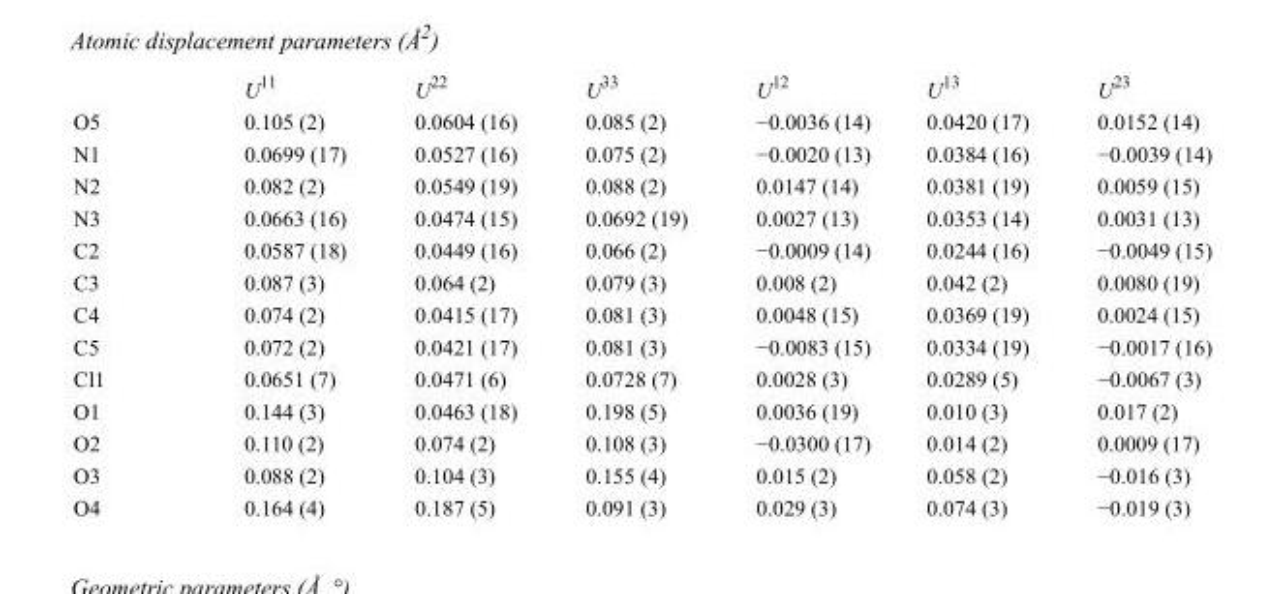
<table><thead><tr><td></td><td>U<sup>11</sup></td><td>U<sup>22</sup></td><td>U<sup>33</sup></td><td>U<sup>12</sup></td><td>U<sup>13</sup></td><td>U<sup>23</sup></td></tr></thead><tbody><tr><td>O5</td><td>0.105 (2)</td><td>0.0604 (16)</td><td>0.085 (2)</td><td>−0.0036 (14)</td><td>0.0420 (17)</td><td>0.0152 (14)</td></tr><tr><td>N1</td><td>0.0699 (17)</td><td>0.0527 (16)</td><td>0.075 (2)</td><td>−0.0020 (13)</td><td>0.0384 (16)</td><td>−0.0039 (14)</td></tr><tr><td>N2</td><td>0.082 (2)</td><td>0.0549 (19)</td><td>0.088 (2)</td><td>0.0147 (14)</td><td>0.0381 (19)</td><td>0.0059 (15)</td></tr><tr><td>N3</td><td>0.0663 (16)</td><td>0.0474 (15)</td><td>0.0692 (19)</td><td>0.0027 (13)</td><td>0.0353 (14)</td><td>0.0031 (13)</td></tr><tr><td>C2</td><td>0.0587 (18)</td><td>0.0449 (16)</td><td>0.066 (2)</td><td>−0.0009 (14)</td><td>0.0244 (16)</td><td>−0.0049 (15)</td></tr><tr><td>C3</td><td>0.087 (3)</td><td>0.064 (2)</td><td>0.079 (3)</td><td>0.008 (2)</td><td>0.042 (2)</td><td>0.0080 (19)</td></tr><tr><td>C4</td><td>0.074 (2)</td><td>0.0415 (17)</td><td>0.081 (3)</td><td>0.0048 (15)</td><td>0.0369 (19)</td><td>0.0024 (15)</td></tr><tr><td>C5</td><td>0.072 (2)</td><td>0.0421 (17)</td><td>0.081 (3)</td><td>−0.0083 (15)</td><td>0.0334 (19)</td><td>−0.0017 (16)</td></tr><tr><td>Cl1</td><td>0.0651 (7)</td><td>0.0471 (6)</td><td>0.0728 (7)</td><td>0.0028 (3)</td><td>0.0289 (5)</td><td>−0.0067 (3)</td></tr><tr><td>O1</td><td>0.144 (3)</td><td>0.0463 (18)</td><td>0.198 (5)</td><td>0.0036 (19)</td><td>0.010 (3)</td><td>0.017 (2)</td></tr><tr><td>O2</td><td>0.110 (2)</td><td>0.074 (2)</td><td>0.108 (3)</td><td>−0.0300 (17)</td><td>0.014 (2)</td><td>0.0009 (17)</td></tr><tr><td>O3</td><td>0.088 (2)</td><td>0.104 (3)</td><td>0.155 (4)</td><td>0.015 (2)</td><td>0.058 (2)</td><td>−0.016 (3)</td></tr><tr><td>O4</td><td>0.164 (4)</td><td>0.187 (5)</td><td>0.091 (3)</td><td>0.029 (3)</td><td>0.074 (3)</td><td>−0.019 (3)</td></tr></tbody></table>